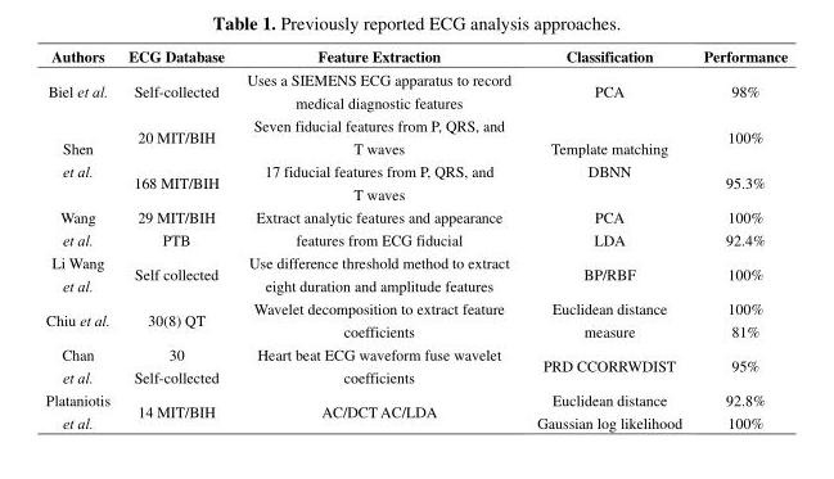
<table><thead><tr><td>Authors</td><td>ECG Database</td><td>Feature Extraction</td><td>Classification</td><td>Performance</td></tr></thead><tbody><tr><td>Biel et al.</td><td>Self-collected</td><td>Uses a SIEMENS ECG apparatus to record medical diagnostic features</td><td>PCA</td><td>98%</td></tr><tr><td rowspan="2">Shen et al.</td><td>20 MIT/BIH</td><td>Seven fiducial features from P, QRS, and T waves</td><td rowspan="2">Template matching DBNN</td><td>100%</td></tr><tr><td>168 MIT/BIH</td><td>17 fiducial features from P, QRS, and T waves</td><td>95.3%</td></tr><tr><td rowspan="2">Wang et al.</td><td rowspan="2">29 MIT/BIH PTB</td><td rowspan="2">Extract analytic features and appearance features from ECG fiducial</td><td>PCA</td><td>100%</td></tr><tr><td>LDA</td><td>92.4%</td></tr><tr><td>Li Wang et al.</td><td>Self collected</td><td>Use difference threshold method to extract eight duration and amplitude features</td><td>BP/RBF</td><td>100%</td></tr><tr><td rowspan="2">Chiu et al.</td><td rowspan="2">30(8) QT</td><td rowspan="2">Wavelet decomposition to extract feature coefficients</td><td rowspan="2">Euclidean distance measure</td><td>100%</td></tr><tr><td>81%</td></tr><tr><td>Chan et al.</td><td>30 Self-collected</td><td>Heart beat ECG waveform fuse wavelet coefficients</td><td>PRD CCORRWDIST</td><td>95%</td></tr><tr><td rowspan="2">Plataniotis et al.</td><td rowspan="2">14 MIT/BIH</td><td rowspan="2">AC/DCT AC/LDA</td><td>Euclidean distance</td><td>92.8%</td></tr><tr><td>Gaussian log likelihood</td><td>100%</td></tr></tbody></table>